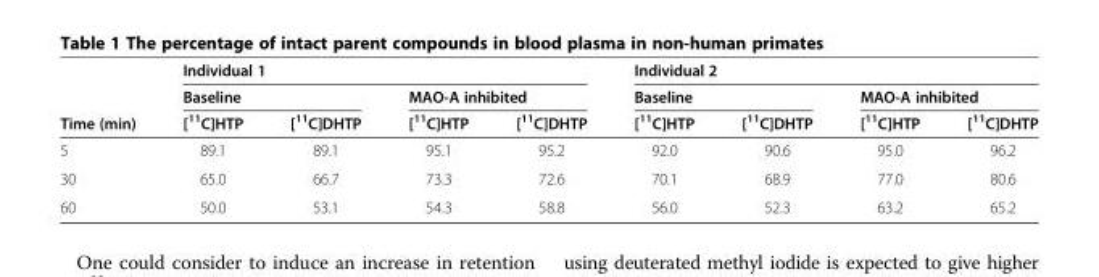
<table><thead><tr><td rowspan="3">Time (min)</td><td colspan="4">Individual 1</td><td colspan="4">Individual 2</td></tr><tr><td colspan="2">Baseline</td><td colspan="2">MAO-A inhibited</td><td colspan="2">Baseline</td><td colspan="2">MAO-A inhibited</td></tr><tr><td>[<sup>11</sup>C]HTP</td><td>[<sup>11</sup>C]DHTP</td><td>[<sup>11</sup>C]HTP</td><td>[<sup>11</sup>C]DHTP</td><td>[<sup>11</sup>C]HTP</td><td>[<sup>11</sup>C]DHTP</td><td>[<sup>11</sup>C]HTP</td><td>[<sup>11</sup>C]DHTP</td></tr></thead><tbody><tr><td>5</td><td>89.1</td><td>89.1</td><td>95.1</td><td>95.2</td><td>92.0</td><td>90.6</td><td>95.0</td><td>96.2</td></tr><tr><td>30</td><td>65.0</td><td>66.7</td><td>73.3</td><td>72.6</td><td>70.1</td><td>68.9</td><td>77.0</td><td>80.6</td></tr><tr><td>60</td><td>50.0</td><td>53.1</td><td>54.3</td><td>58.8</td><td>56.0</td><td>52.3</td><td>63.2</td><td>65.2</td></tr></tbody></table>